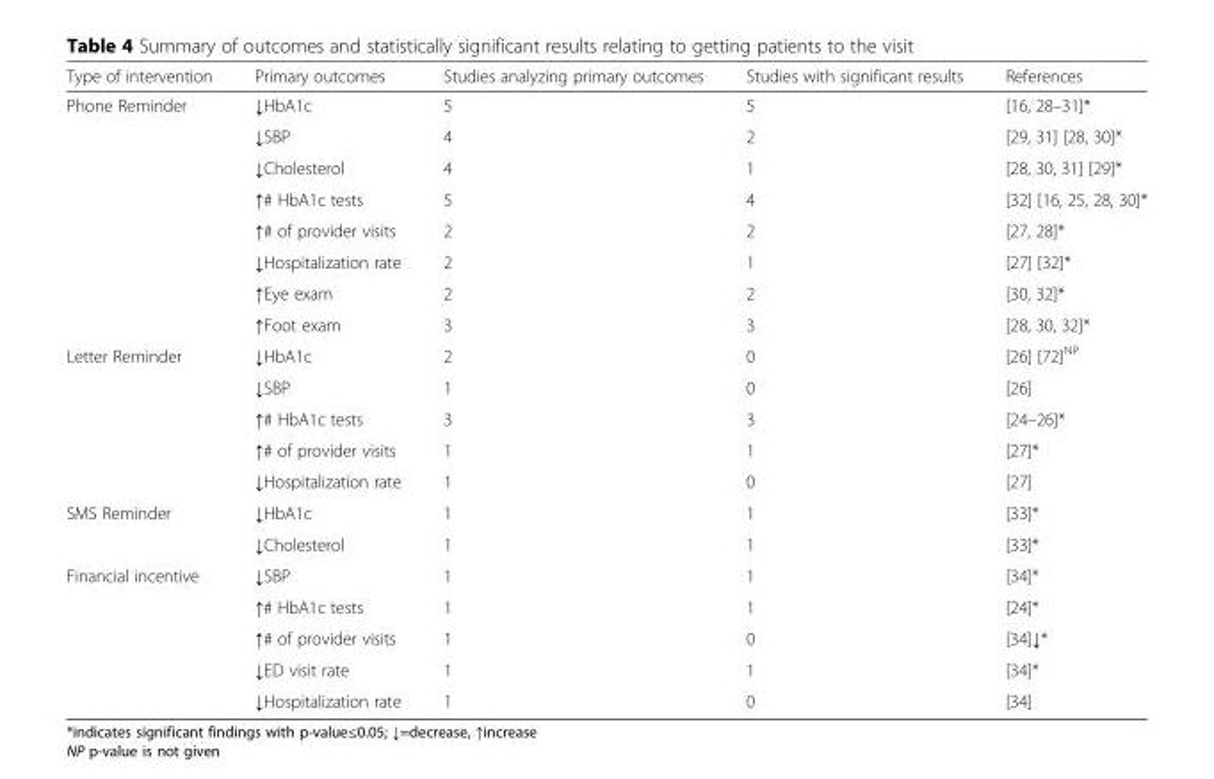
<table><thead><tr><td>Type of intervention</td><td>Primary outcomes</td><td>Studies analyzing primary outcomes</td><td>Studies with significant results</td><td>References</td></tr></thead><tbody><tr><td rowspan="8">Phone Reminder</td><td>↓HbA1c</td><td>5</td><td>5</td><td>[16, 28–31]*</td></tr><tr><td>↓SBP</td><td>4</td><td>2</td><td>[29, 31] [28, 30]*</td></tr><tr><td>↓Cholesterol</td><td>4</td><td>1</td><td>[28, 30, 31] [29]*</td></tr><tr><td>↑# HbA1c tests</td><td>5</td><td>4</td><td>[32] [16, 25, 28, 30]*</td></tr><tr><td>↑# of provider visits</td><td>2</td><td>2</td><td>[27, 28]*</td></tr><tr><td>↓Hospitalization rate</td><td>2</td><td>1</td><td>[27] [32]*</td></tr><tr><td>↑Eye exam</td><td>2</td><td>2</td><td>[30, 32]*</td></tr><tr><td>↑Foot exam</td><td>3</td><td>3</td><td>[28, 30, 32]*</td></tr><tr><td rowspan="5">Letter Reminder</td><td>↓HbA1c</td><td>2</td><td>0</td><td>[26] [72]<sup>NP</sup></td></tr><tr><td>↓SBP</td><td>1</td><td>0</td><td>[26]</td></tr><tr><td>↑# HbA1c tests</td><td>3</td><td>3</td><td>[24–26]*</td></tr><tr><td>↑# of provider visits</td><td>1</td><td>1</td><td>[27]*</td></tr><tr><td>↓Hospitalization rate</td><td>1</td><td>0</td><td>[27]</td></tr><tr><td rowspan="2">SMS Reminder</td><td>↓HbA1c</td><td>1</td><td>1</td><td>[33]*</td></tr><tr><td>↓Cholesterol</td><td>1</td><td>1</td><td>[33]*</td></tr><tr><td rowspan="5">Financial incentive</td><td>↓SBP</td><td>1</td><td>1</td><td>[34]*</td></tr><tr><td>↑# HbA1c tests</td><td>1</td><td>1</td><td>[24]*</td></tr><tr><td>↑# of provider visits</td><td>1</td><td>0</td><td>[34]↓*</td></tr><tr><td>↓ED visit rate</td><td>1</td><td>1</td><td>[34]*</td></tr><tr><td>↓Hospitalization rate</td><td>1</td><td>0</td><td>[34]</td></tr></tbody></table>